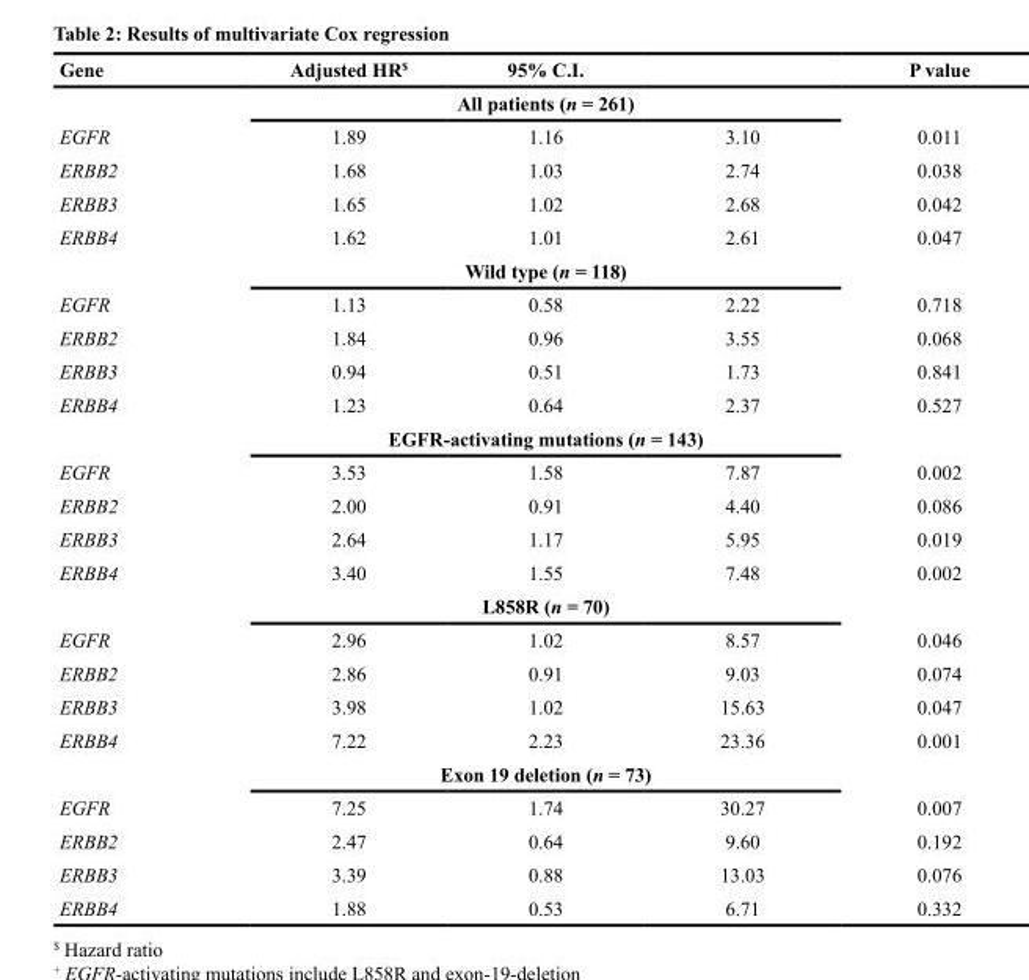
<table><thead><tr><td>Gene</td><td>Adjusted HR <sup>$</sup></td><td>95% C.I.</td><td></td><td>P value</td></tr></thead><tbody><tr><td></td><td colspan="3">All patients ( n = 261)</td><td></td></tr><tr><td>EGFR</td><td>1.89</td><td>1.16</td><td>3.10</td><td>0.011</td></tr><tr><td>ERBB2</td><td>1.68</td><td>1.03</td><td>2.74</td><td>0.038</td></tr><tr><td>ERBB3</td><td>1.65</td><td>1.02</td><td>2.68</td><td>0.042</td></tr><tr><td rowspan="2">ERBB4</td><td>1.62</td><td>1.01</td><td>2.61</td><td>0.047</td></tr><tr><td colspan="3">Wild type ( n = 118)</td><td></td></tr><tr><td>EGFR</td><td>1.13</td><td>0.58</td><td>2.22</td><td>0.718</td></tr><tr><td>ERBB2</td><td>1.84</td><td>0.96</td><td>3.55</td><td>0.068</td></tr><tr><td>ERBB3</td><td>0.94</td><td>0.51</td><td>1.73</td><td>0.841</td></tr><tr><td rowspan="2">ERBB4</td><td>1.23</td><td>0.64</td><td>2.37</td><td>0.527</td></tr><tr><td colspan="3">EGFR-activating mutations ( n = 143)</td><td></td></tr><tr><td>EGFR</td><td>3.53</td><td>1.58</td><td>7.87</td><td>0.002</td></tr><tr><td>ERBB2</td><td>2.00</td><td>0.91</td><td>4.40</td><td>0.086</td></tr><tr><td>ERBB3</td><td>2.64</td><td>1.17</td><td>5.95</td><td>0.019</td></tr><tr><td rowspan="2">ERBB4</td><td>3.40</td><td>1.55</td><td>7.48</td><td>0.002</td></tr><tr><td colspan="3">L858R ( n = 70)</td><td></td></tr><tr><td>EGFR</td><td>2.96</td><td>1.02</td><td>8.57</td><td>0.046</td></tr><tr><td>ERBB2</td><td>2.86</td><td>0.91</td><td>9.03</td><td>0.074</td></tr><tr><td>ERBB3</td><td>3.98</td><td>1.02</td><td>15.63</td><td>0.047</td></tr><tr><td rowspan="2">ERBB4</td><td>7.22</td><td>2.23</td><td>23.36</td><td>0.001</td></tr><tr><td colspan="3">Exon 19 deletion ( n = 73)</td><td></td></tr><tr><td>EGFR</td><td>7.25</td><td>1.74</td><td>30.27</td><td>0.007</td></tr><tr><td>ERBB2</td><td>2.47</td><td>0.64</td><td>9.60</td><td>0.192</td></tr><tr><td>ERBB3</td><td>3.39</td><td>0.88</td><td>13.03</td><td>0.076</td></tr><tr><td>ERBB4</td><td>1.88</td><td>0.53</td><td>6.71</td><td>0.332</td></tr></tbody></table>